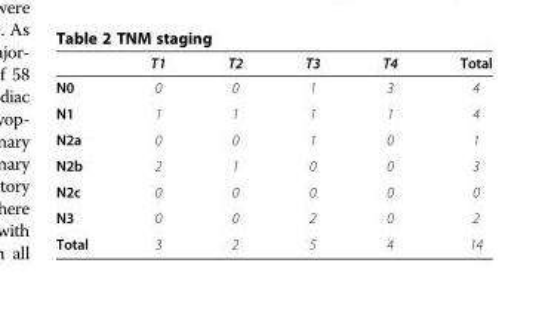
<table><thead><tr><td></td><td>T1</td><td>T2</td><td>T3</td><td>T4</td><td>Total</td></tr></thead><tbody><tr><td>N0</td><td>0</td><td>0</td><td>1</td><td>3</td><td>4</td></tr><tr><td>N1</td><td>1</td><td>1</td><td>1</td><td>1</td><td>4</td></tr><tr><td>N2a</td><td>0</td><td>0</td><td>1</td><td>0</td><td>1</td></tr><tr><td>N2b</td><td>2</td><td>1</td><td>0</td><td>0</td><td>3</td></tr><tr><td>N2c</td><td>0</td><td>0</td><td>0</td><td>0</td><td>0</td></tr><tr><td>N3</td><td>0</td><td>0</td><td>2</td><td>0</td><td>2</td></tr><tr><td>Total</td><td>3</td><td>2</td><td>5</td><td>4</td><td>14</td></tr></tbody></table>